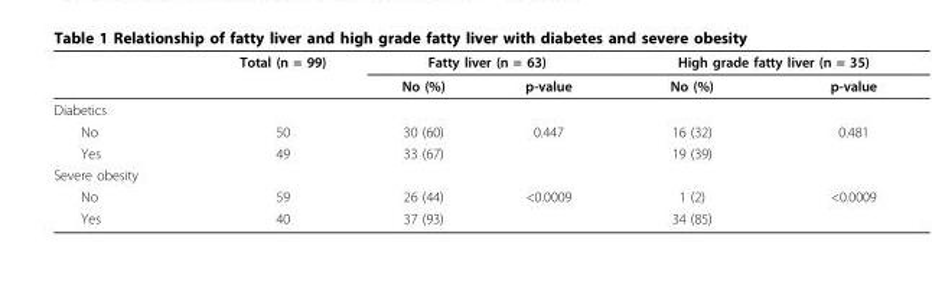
<table><thead><tr><td rowspan="2"></td><td rowspan="2">Total (n = 99)</td><td colspan="2">Fatty liver (n = 63)</td><td colspan="2">High grade fatty liver (n = 35)</td></tr><tr><td>No (%)</td><td>p-value</td><td>No (%)</td><td>p-value</td></tr></thead><tbody><tr><td colspan="6">Diabetics</td></tr><tr><td>No</td><td>50</td><td>30 (60)</td><td>0.447</td><td>16 (32)</td><td>0.481</td></tr><tr><td>Yes</td><td>49</td><td>33 (67)</td><td></td><td>19 (39)</td><td></td></tr><tr><td colspan="6">Severe obesity</td></tr><tr><td>No</td><td>59</td><td>26 (44)</td><td>&lt;0.0009</td><td>1 (2)</td><td>&lt;0.0009</td></tr><tr><td>Yes</td><td>40</td><td>37 (93)</td><td></td><td>34 (85)</td><td></td></tr></tbody></table>